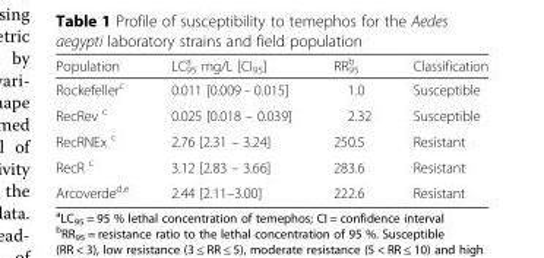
<table><thead><tr><td>Population</td><td>LC<sub>95</sub> <sup>a</sup> mg/L [CI<sub>95</sub>]</td><td>RR<sub>95</sub> <sup>b</sup></td><td>Classification</td></tr></thead><tbody><tr><td>Rockefeller<sup>c</sup></td><td>0.011 [0.009 - 0.015]</td><td>1.0</td><td>Susceptible</td></tr><tr><td>RecRev <sup>c</sup></td><td>0.025 [0.018 – 0.039]</td><td>2.32</td><td>Susceptible</td></tr><tr><td>RecRNEx <sup>c</sup></td><td>2.76 [2.31 – 3.24]</td><td>250.5</td><td>Resistant</td></tr><tr><td>RecR <sup>c</sup></td><td>3.12 [2.83 – 3.66]</td><td>283.6</td><td>Resistant</td></tr><tr><td>Arcoverde<sup>d,e</sup></td><td>2.44 [2.11–3.00]</td><td>222.6</td><td>Resistant</td></tr></tbody></table>